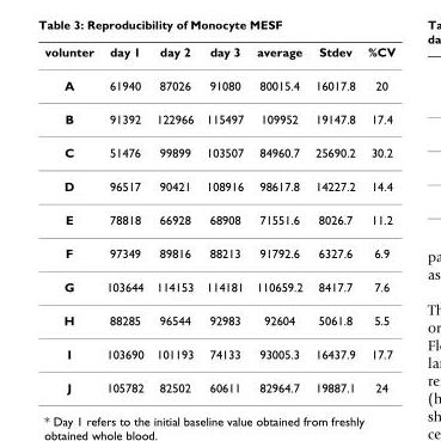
<table><thead><tr><td>volunter</td><td>day 1</td><td>day 2</td><td>day 3</td><td>average</td><td>Stdev</td><td>%CV</td></tr></thead><tbody><tr><td>A</td><td>61940</td><td>87026</td><td>91080</td><td>80015.4</td><td>16017.8</td><td>20</td></tr><tr><td>B</td><td>91392</td><td>122966</td><td>115497</td><td>109952</td><td>19147.8</td><td>17.4</td></tr><tr><td>C</td><td>51476</td><td>99899</td><td>103507</td><td>84960.7</td><td>25690.2</td><td>30.2</td></tr><tr><td>D</td><td>96517</td><td>90421</td><td>108916</td><td>98617.8</td><td>14227.2</td><td>14.4</td></tr><tr><td>E</td><td>78818</td><td>66928</td><td>68908</td><td>71551.6</td><td>8026.7</td><td>11.2</td></tr><tr><td>F</td><td>97349</td><td>89816</td><td>88213</td><td>91792.6</td><td>6327.6</td><td>6.9</td></tr><tr><td>G</td><td>103644</td><td>114153</td><td>114181</td><td>110659.2</td><td>8417.7</td><td>7.6</td></tr><tr><td>H</td><td>88285</td><td>96544</td><td>92983</td><td>92604</td><td>5061.8</td><td>5.5</td></tr><tr><td>I</td><td>103690</td><td>101193</td><td>74133</td><td>93005.3</td><td>16437.9</td><td>17.7</td></tr><tr><td>J</td><td>105782</td><td>82502</td><td>60611</td><td>82964.7</td><td>19887.1</td><td>24</td></tr></tbody></table>